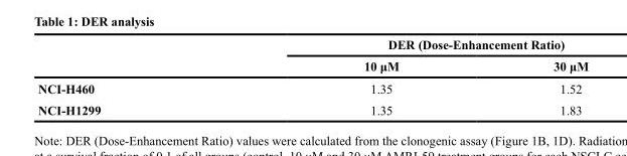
<table><thead><tr><td rowspan="2"></td><td colspan="2">DER (Dose-Enhancement Ratio)</td></tr><tr><td>10 μM</td><td>30 μM</td></tr></thead><tbody><tr><td>NCI-H460</td><td>1.35</td><td>1.52</td></tr><tr><td>NCI-H1299</td><td>1.35</td><td>1.83</td></tr></tbody></table>